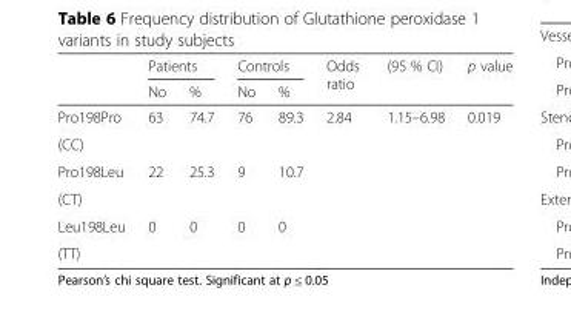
<table><thead><tr><td rowspan="2"></td><td colspan="2">Patients</td><td colspan="2">Controls</td><td rowspan="2">Odds ratio</td><td rowspan="2">(95 % CI)</td><td rowspan="2">p value</td></tr><tr><td>No</td><td>%</td><td>No</td><td>%</td></tr></thead><tbody><tr><td>Pro198Pro</td><td>63</td><td>74.7</td><td>76</td><td>89.3</td><td>2.84</td><td>1.15–6.98</td><td>0.019</td></tr><tr><td colspan="8">(CC)</td></tr><tr><td>Pro198Leu</td><td>22</td><td>25.3</td><td>9</td><td>10.7</td><td></td><td></td><td></td></tr><tr><td colspan="8">(CT)</td></tr><tr><td>Leu198Leu</td><td>0</td><td>0</td><td>0</td><td>0</td><td></td><td></td><td></td></tr><tr><td>(TT)</td><td></td><td></td><td></td><td></td><td></td><td></td><td></td></tr></tbody></table>